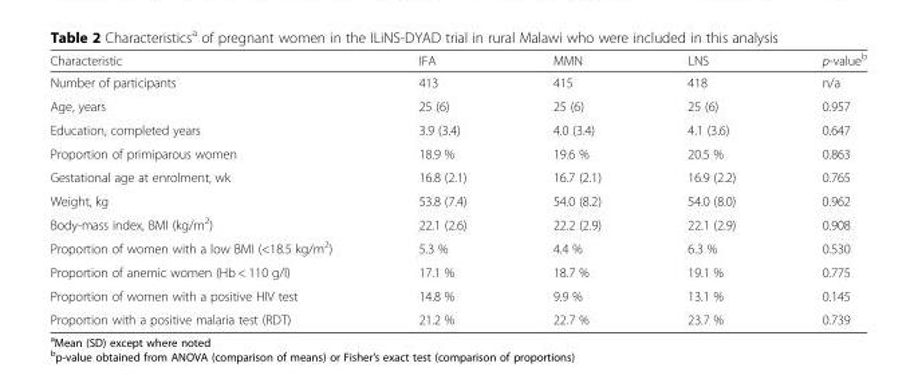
<table><thead><tr><td>Characteristic</td><td>IFA</td><td>MMN</td><td>LNS</td><td>p-value<sup>b</sup></td></tr></thead><tbody><tr><td>Number of participants</td><td>413</td><td>415</td><td>418</td><td>n/a</td></tr><tr><td>Age, years</td><td>25 (6)</td><td>25 (6)</td><td>25 (6)</td><td>0.957</td></tr><tr><td>Education, completed years</td><td>3.9 (3.4)</td><td>4.0 (3.4)</td><td>4.1 (3.6)</td><td>0.647</td></tr><tr><td>Proportion of primiparous women</td><td>18.9 %</td><td>19.6 %</td><td>20.5 %</td><td>0.863</td></tr><tr><td>Gestational age at enrolment, wk</td><td>16.8 (2.1)</td><td>16.7 (2.1)</td><td>16.9 (2.2)</td><td>0.765</td></tr><tr><td>Weight, kg</td><td>53.8 (7.4)</td><td>54.0 (8.2)</td><td>54.0 (8.0)</td><td>0.962</td></tr><tr><td>Body-mass index, BMI (kg/m<sup>2</sup>)</td><td>22.1 (2.6)</td><td>22.2 (2.9)</td><td>22.1 (2.9)</td><td>0.908</td></tr><tr><td>Proportion of women with a low BMI (&lt;18.5 kg/m<sup>2</sup>)</td><td>5.3 %</td><td>4.4 %</td><td>6.3 %</td><td>0.530</td></tr><tr><td>Proportion of anemic women (Hb &lt; 110 g/l)</td><td>17.1 %</td><td>18.7 %</td><td>19.1 %</td><td>0.775</td></tr><tr><td>Proportion of women with a positive HIV test</td><td>14.8 %</td><td>9.9 %</td><td>13.1 %</td><td>0.145</td></tr><tr><td>Proportion with a positive malaria test (RDT)</td><td>21.2 %</td><td>22.7 %</td><td>23.7 %</td><td>0.739</td></tr></tbody></table>